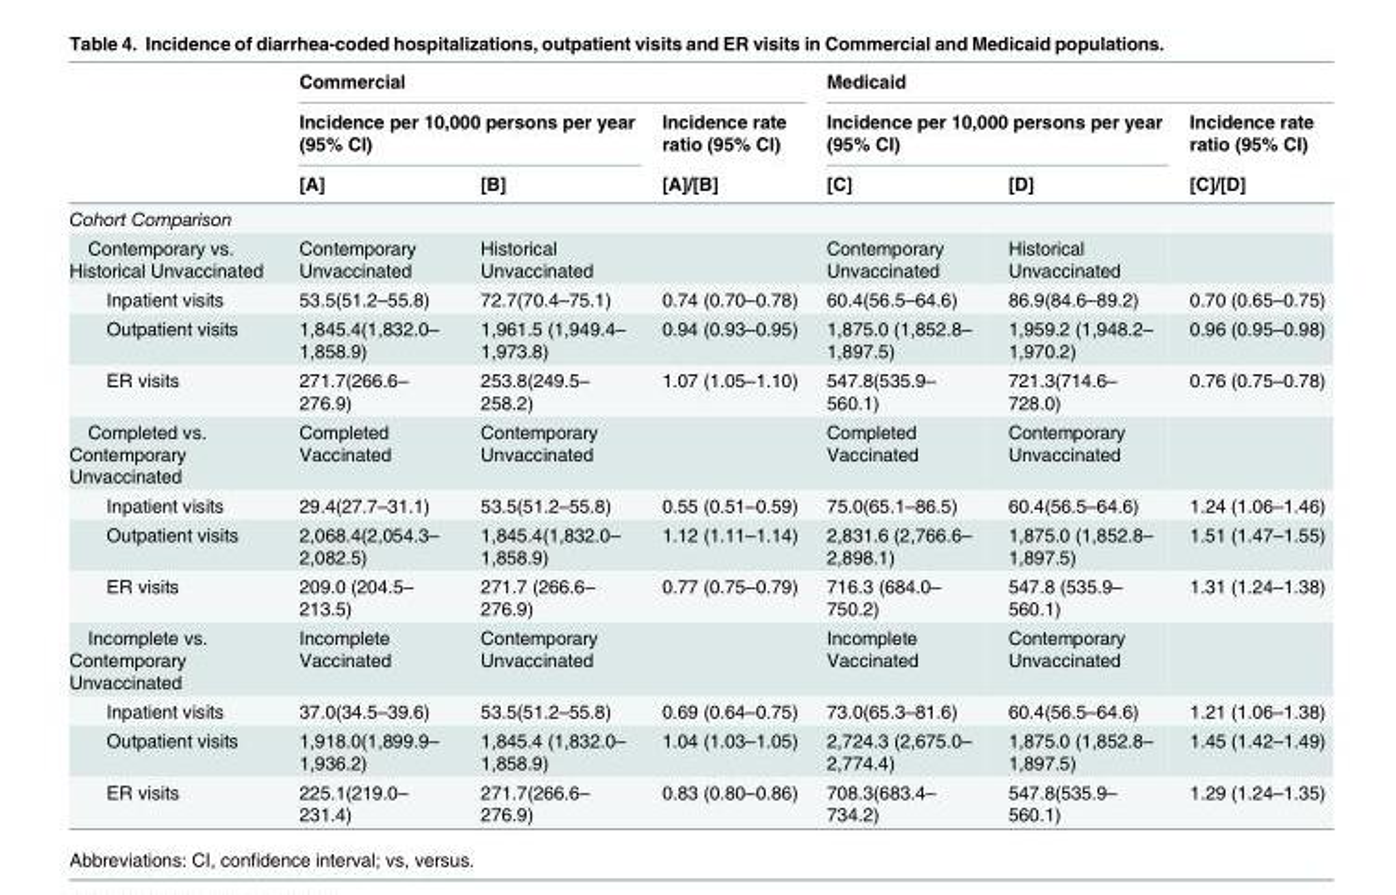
<table><thead><tr><td rowspan="3"></td><td colspan="3">Commercial</td><td colspan="3">Medicaid</td></tr><tr><td colspan="2">Incidence per 10,000 persons per year (95% CI)</td><td rowspan="2">Incidence rate ratio (95% CI) [A]/[B]</td><td colspan="2">Incidence per 10,000 persons per year (95% CI)</td><td rowspan="2">Incidence rate ratio (95% CI) [C]/[D]</td></tr><tr><td>[A]</td><td>[B]</td><td>[C]</td><td>[D]</td></tr></thead><tbody><tr><td colspan="7">Cohort Comparison</td></tr><tr><td>Contemporary vs. Historical Unvaccinated</td><td>Contemporary Unvaccinated</td><td>Historical Unvaccinated</td><td></td><td>Contemporary Unvaccinated</td><td>Historical Unvaccinated</td><td></td></tr><tr><td>Inpatient visits</td><td>53.5(51.2–55.8)</td><td>72.7(70.4–75.1)</td><td>0.74 (0.70–0.78)</td><td>60.4(56.5–64.6)</td><td>86.9(84.6–89.2)</td><td>0.70 (0.65–0.75)</td></tr><tr><td>Outpatient visits</td><td>1,845.4(1,832.0– 1,858.9)</td><td>1,961.5 (1,949.4– 1,973.8)</td><td>0.94 (0.93–0.95)</td><td>1,875.0 (1,852.8– 1,897.5)</td><td>1,959.2 (1,948.2– 1,970.2)</td><td>0.96 (0.95–0.98)</td></tr><tr><td>ER visits</td><td>271.7(266.6– 276.9)</td><td>253.8(249.5– 258.2)</td><td>1.07 (1.05–1.10)</td><td>547.8(535.9– 560.1)</td><td>721.3(714.6– 728.0)</td><td>0.76 (0.75–0.78)</td></tr><tr><td>Completed vs. Contemporary Unvaccinated</td><td>Completed Vaccinated</td><td>Contemporary Unvaccinated</td><td></td><td>Completed Vaccinated</td><td>Contemporary Unvaccinated</td><td></td></tr><tr><td>Inpatient visits</td><td>29.4(27.7–31.1)</td><td>53.5(51.2–55.8)</td><td>0.55 (0.51–0.59)</td><td>75.0(65.1–86.5)</td><td>60.4(56.5–64.6)</td><td>1.24 (1.06–1.46)</td></tr><tr><td>Outpatient visits</td><td>2,068.4(2,054.3– 2,082.5)</td><td>1,845.4(1,832.0– 1,858.9)</td><td>1.12 (1.11–1.14)</td><td>2,831.6 (2,766.6– 2,898.1)</td><td>1,875.0 (1,852.8– 1,897.5)</td><td>1.51 (1.47–1.55)</td></tr><tr><td>ER visits</td><td>209.0 (204.5– 213.5)</td><td>271.7 (266.6– 276.9)</td><td>0.77 (0.75–0.79)</td><td>716.3 (684.0– 750.2)</td><td>547.8 (535.9– 560.1)</td><td>1.31 (1.24–1.38)</td></tr><tr><td>Incomplete vs. Contemporary Unvaccinated</td><td>Incomplete Vaccinated</td><td>Contemporary Unvaccinated</td><td></td><td>Incomplete Vaccinated</td><td>Contemporary Unvaccinated</td><td></td></tr><tr><td>Inpatient visits</td><td>37.0(34.5–39.6)</td><td>53.5(51.2–55.8)</td><td>0.69 (0.64–0.75)</td><td>73.0(65.3–81.6)</td><td>60.4(56.5–64.6)</td><td>1.21 (1.06–1.38)</td></tr><tr><td>Outpatient visits</td><td>1,918.0(1,899.9– 1,936.2)</td><td>1,845.4 (1,832.0– 1,858.9)</td><td>1.04 (1.03–1.05)</td><td>2,724.3 (2,675.0– 2,774.4)</td><td>1,875.0 (1,852.8– 1,897.5)</td><td>1.45 (1.42–1.49)</td></tr><tr><td>ER visits</td><td>225.1(219.0– 231.4)</td><td>271.7(266.6– 276.9)</td><td>0.83 (0.80–0.86)</td><td>708.3(683.4– 734.2)</td><td>547.8(535.9– 560.1)</td><td>1.29 (1.24–1.35)</td></tr></tbody></table>